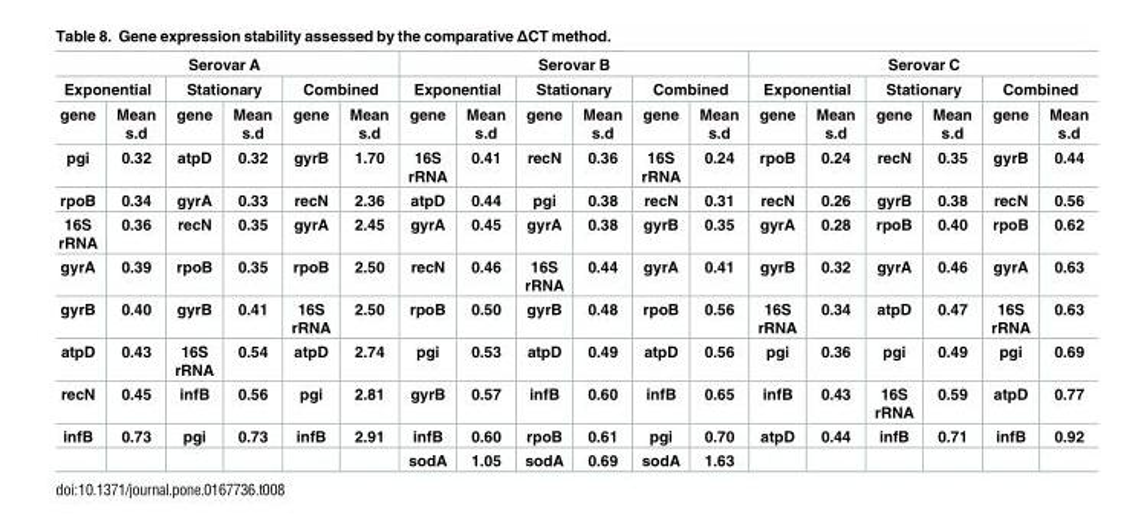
<table><thead><tr><td colspan="6">Serovar A</td><td colspan="6">Serovar B</td><td colspan="6">Serovar C</td></tr><tr><td colspan="2">Exponential</td><td colspan="2">Stationary</td><td colspan="2">Combined</td><td colspan="2">Exponential</td><td colspan="2">Stationary</td><td colspan="2">Combined</td><td colspan="2">Exponential</td><td colspan="2">Stationary</td><td colspan="2">Combined</td></tr><tr><td>gene</td><td>Mean s.d</td><td>gene</td><td>Mean s.d</td><td>gene</td><td>Mean s.d</td><td>gene</td><td>Mean s.d</td><td>gene</td><td>Mean s.d</td><td>gene</td><td>Mean s.d</td><td>gene</td><td>Mean s.d</td><td>gene</td><td>Mean s.d</td><td>gene</td><td>Mean s.d</td></tr></thead><tbody><tr><td>pgi</td><td>0.32</td><td>atpD</td><td>0.32</td><td>gyrB</td><td>1.70</td><td>16S rRNA</td><td>0.41</td><td>recN</td><td>0.36</td><td>16S rRNA</td><td>0.24</td><td>rpoB</td><td>0.24</td><td>recN</td><td>0.35</td><td>gyrB</td><td>0.44</td></tr><tr><td>rpoB</td><td>0.34</td><td>gyrA</td><td>0.33</td><td>recN</td><td>2.36</td><td>atpD</td><td>0.44</td><td>pgi</td><td>0.38</td><td>recN</td><td>0.31</td><td>recN</td><td>0.26</td><td>gyrB</td><td>0.38</td><td>recN</td><td>0.56</td></tr><tr><td>16S rRNA</td><td>0.36</td><td>recN</td><td>0.35</td><td>gyrA</td><td>2.45</td><td>gyrA</td><td>0.45</td><td>gyrA</td><td>0.38</td><td>gyrB</td><td>0.35</td><td>gyrA</td><td>0.28</td><td>rpoB</td><td>0.40</td><td>rpoB</td><td>0.62</td></tr><tr><td>gyrA</td><td>0.39</td><td>rpoB</td><td>0.35</td><td>rpoB</td><td>2.50</td><td>recN</td><td>0.46</td><td>16S rRNA</td><td>0.44</td><td>gyrA</td><td>0.41</td><td>gyrB</td><td>0.32</td><td>gyrA</td><td>0.46</td><td>gyrA</td><td>0.63</td></tr><tr><td>gyrB</td><td>0.40</td><td>gyrB</td><td>0.41</td><td>16S rRNA</td><td>2.50</td><td>rpoB</td><td>0.50</td><td>gyrB</td><td>0.48</td><td>rpoB</td><td>0.56</td><td>16S rRNA</td><td>0.34</td><td>atpD</td><td>0.47</td><td>16S rRNA</td><td>0.63</td></tr><tr><td>atpD</td><td>0.43</td><td>16S rRNA</td><td>0.54</td><td>atpD</td><td>2.74</td><td>pgi</td><td>0.53</td><td>atpD</td><td>0.49</td><td>atpD</td><td>0.56</td><td>pgi</td><td>0.36</td><td>pgi</td><td>0.49</td><td>pgi</td><td>0.69</td></tr><tr><td>recN</td><td>0.45</td><td>infB</td><td>0.56</td><td>pgi</td><td>2.81</td><td>gyrB</td><td>0.57</td><td>infB</td><td>0.60</td><td>infB</td><td>0.65</td><td>infB</td><td>0.43</td><td>16S rRNA</td><td>0.59</td><td>atpD</td><td>0.77</td></tr><tr><td rowspan="2">infB</td><td>0.73</td><td>pgi</td><td>0.73</td><td>infB</td><td>2.91</td><td>infB</td><td>0.60</td><td>rpoB</td><td>0.61</td><td>pgi</td><td>0.70</td><td>atpD</td><td>0.44</td><td>infB</td><td>0.71</td><td>infB</td><td>0.92</td></tr><tr><td></td><td></td><td></td><td></td><td></td><td>sodA</td><td>1.05</td><td>sodA</td><td>0.69</td><td>sodA</td><td>1.63</td><td></td><td></td><td></td><td></td><td></td><td></td></tr></tbody></table>